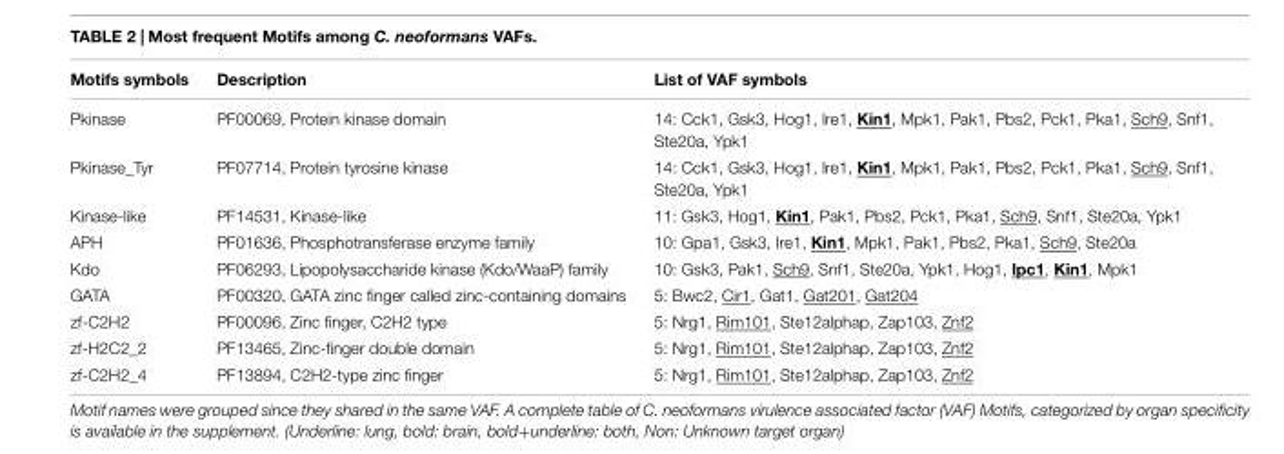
<table><thead><tr><td>Motifs symbols</td><td>Description</td><td>List of VAF symbols</td></tr></thead><tbody><tr><td>Pkinase</td><td>PF00069, Protein kinase domain</td><td>14: Cck1, Gsk3, Hog1, Ire1, Kin1, Mpk1, Pak1, Pbs2, Pck1, Pka1, Sch9, Snf1, Ste20a, Ypk1</td></tr><tr><td>Pkinase_Tyr</td><td>PF07714, Protein tyrosine kinase</td><td>14: Cck1, Gsk3, Hog1, Ire1, Kin1, Mpk1, Pak1, Pbs2, Pck1, Pka1, Sch9, Snf1, Ste20a, Ypk1</td></tr><tr><td>Kinase-like</td><td>PF14531, Kinase-like</td><td>11: Gsk3, Hog1, Kin1, Pak1, Pbs2, Pck1, Pka1, Sch9, Snf1, Ste20a, Ypk1</td></tr><tr><td>APH</td><td>PF01636, Phosphotransferase enzyme family</td><td>10: Gpa1, Gsk3, Ire1, Kin1, Mpk1, Pak1, Pbs2, Pka1, Sch9, Ste20a</td></tr><tr><td>Kdo</td><td>PF06293, Lipopolysaccharide kinase (Kdo/WaaP) family</td><td>10: Gsk3, Pak1, Sch9, Snf1, Ste20a, Ypk1, Hog1, Ipc1, Kin1, Mpk1</td></tr><tr><td>GATA</td><td>PF00320, GATA zinc finger called zinc-containing domains</td><td>5: Bwc2, Cir1, Gat1, Gat201, Gat204</td></tr><tr><td>zf-C2H2</td><td>PF00096, Zinc finger, C2H2 type</td><td>5: Nrg1, Rim101, Ste12alphap, Zap103, Znf2</td></tr><tr><td>zf-H2C2_2</td><td>PF13465, Zinc-finger double domain</td><td>5: Nrg1, Rim101, Ste12alphap, Zap103, Znf2</td></tr><tr><td>zf-C2H2_4</td><td>PF13894, C2H2-type zinc finger</td><td>5: Nrg1, Rim101, Ste12alphap, Zap103, Znf2</td></tr></tbody></table>